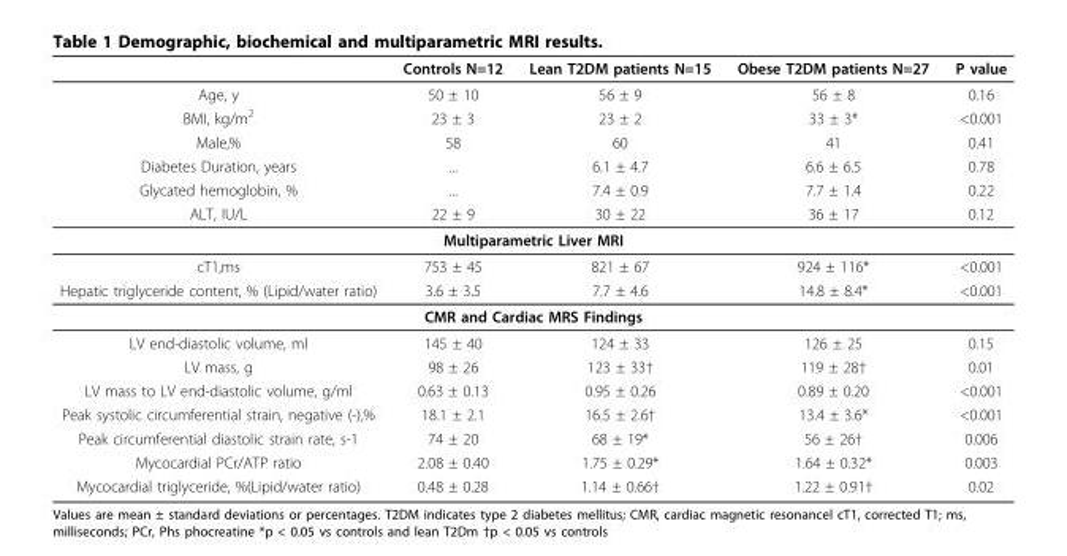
<table><thead><tr><td></td><td>Controls N=12</td><td>Lean T2DM patients N=15</td><td>Obese T2DM patients N=27</td><td>P value</td></tr></thead><tbody><tr><td>Age, y</td><td>50 ± 10</td><td>56 ± 9</td><td>56 ± 8</td><td>0.16</td></tr><tr><td>BMI, kg/m<sup>2</sup></td><td>23 ± 3</td><td>23 ± 2</td><td>33 ± 3*</td><td>&lt;0.001</td></tr><tr><td>Male,%</td><td>58</td><td>60</td><td>41</td><td>0.41</td></tr><tr><td>Diabetes Duration, years</td><td>...</td><td>6.1 ± 4.7</td><td>6.6 ± 6.5</td><td>0.78</td></tr><tr><td>Glycated hemoglobin, %</td><td>...</td><td>7.4 ± 0.9</td><td>7.7 ± 1.4</td><td>0.22</td></tr><tr><td>ALT, IU/L</td><td>22 ± 9</td><td>30 ± 22</td><td>36 ± 17</td><td>0.12</td></tr><tr><td colspan="5">Multiparametric Liver MRI</td></tr><tr><td>cT1,ms</td><td>753 ± 45</td><td>821 ± 67</td><td>924 ± 116*</td><td>&lt;0.001</td></tr><tr><td>Hepatic triglyceride content, % (Lipid/water ratio)</td><td>3.6 ± 3.5</td><td>7.7 ± 4.6</td><td>14.8 ± 8.4*</td><td>&lt;0.001</td></tr><tr><td colspan="5">CMR and Cardiac MRS Findings</td></tr><tr><td>LV end-diastolic volume, ml</td><td>145 ± 40</td><td>124 ± 33</td><td>126 ± 25</td><td>0.15</td></tr><tr><td>LV mass, g</td><td>98 ± 26</td><td>123 ± 33†</td><td>119 ± 28†</td><td>0.01</td></tr><tr><td>LV mass to LV end-diastolic volume, g/ml</td><td>0.63 ± 0.13</td><td>0.95 ± 0.26</td><td>0.89 ± 0.20</td><td>&lt;0.001</td></tr><tr><td>Peak systolic circumferential strain, negative (-),%</td><td>18.1 ± 2.1</td><td>16.5 ± 2.6†</td><td>13.4 ± 3.6*</td><td>&lt;0.001</td></tr><tr><td>Peak circumferential diastolic strain rate, s-1</td><td>74 ± 20</td><td>68 ± 19*</td><td>56 ± 26†</td><td>0.006</td></tr><tr><td>Mycocardial PCr/ATP ratio</td><td>2.08 ± 0.40</td><td>1.75 ± 0.29*</td><td>1.64 ± 0.32*</td><td>0.003</td></tr><tr><td>Mycocardial triglyceride, %(Lipid/water ratio)</td><td>0.48 ± 0.28</td><td>1.14 ± 0.66†</td><td>1.22 ± 0.91†</td><td>0.02</td></tr></tbody></table>